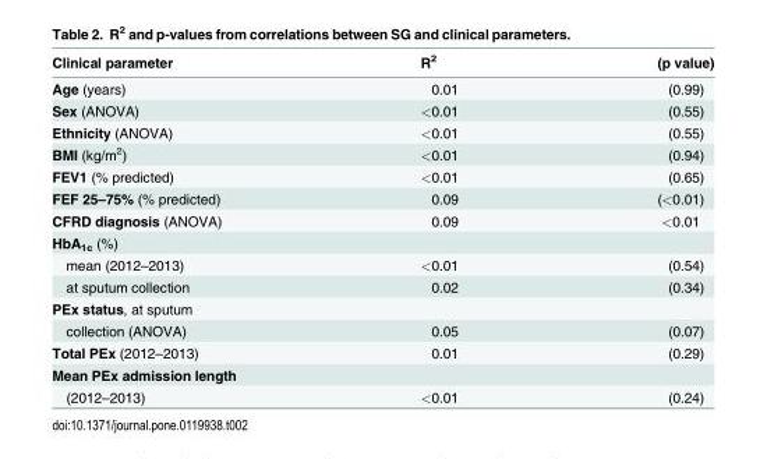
<table><thead><tr><td>Clinical parameter</td><td>R<sup>2</sup></td><td>(p value)</td></tr></thead><tbody><tr><td>Age (years)</td><td>0.01</td><td>(0.99)</td></tr><tr><td>Sex (ANOVA)</td><td>&lt;0.01</td><td>(0.55)</td></tr><tr><td>Ethnicity (ANOVA)</td><td>&lt;0.01</td><td>(0.55)</td></tr><tr><td>BMI (kg/m<sup>2</sup>)</td><td>&lt;0.01</td><td>(0.94)</td></tr><tr><td>FEV1 (% predicted)</td><td>&lt;0.01</td><td>(0.65)</td></tr><tr><td>FEF 25–75% (% predicted)</td><td>0.09</td><td>(&lt;0.01)</td></tr><tr><td>CFRD diagnosis (ANOVA)</td><td>0.09</td><td>&lt;0.01</td></tr><tr><td colspan="3">HbA<sub>1c</sub> (%)</td></tr><tr><td>mean (2012–2013)</td><td>&lt;0.01</td><td>(0.54)</td></tr><tr><td>at sputum collection</td><td>0.02</td><td>(0.34)</td></tr><tr><td colspan="3">PEx status, at sputum</td></tr><tr><td>collection (ANOVA)</td><td>0.05</td><td>(0.07)</td></tr><tr><td>Total PEx (2012–2013)</td><td>0.01</td><td>(0.29)</td></tr><tr><td colspan="3">Mean PEx admission length</td></tr><tr><td>(2012–2013)</td><td>&lt;0.01</td><td>(0.24)</td></tr></tbody></table>